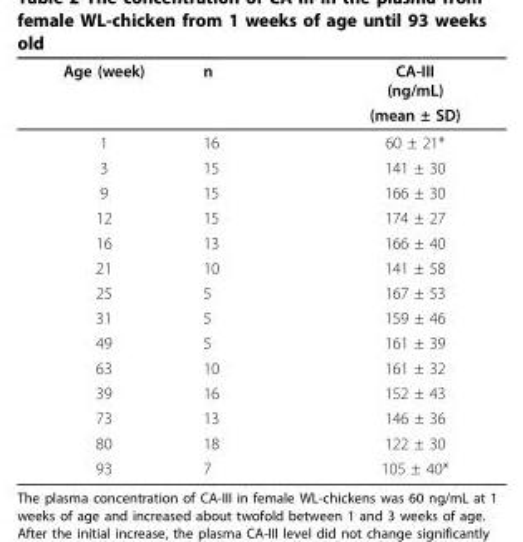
<table><thead><tr><td rowspan="2">Age (week)</td><td rowspan="2">n</td><td rowspan="2">CA-III (ng/mL) (mean ± SD)</td></tr><tr></tr></thead><tbody><tr><td>1</td><td>16</td><td>60 ± 21*</td></tr><tr><td>3</td><td>15</td><td>141 ± 30</td></tr><tr><td>9</td><td>15</td><td>166 ± 30</td></tr><tr><td>12</td><td>15</td><td>174 ± 27</td></tr><tr><td>16</td><td>13</td><td>166 ± 40</td></tr><tr><td>21</td><td>10</td><td>141 ± 58</td></tr><tr><td>25</td><td>5</td><td>167 ± 53</td></tr><tr><td>31</td><td>5</td><td>159 ± 46</td></tr><tr><td>49</td><td>5</td><td>161 ± 39</td></tr><tr><td>63</td><td>10</td><td>161 ± 32</td></tr><tr><td>39</td><td>16</td><td>152 ± 43</td></tr><tr><td>73</td><td>13</td><td>146 ± 36</td></tr><tr><td>80</td><td>18</td><td>122 ± 30</td></tr><tr><td>93</td><td>7</td><td>105 ± 40*</td></tr></tbody></table>